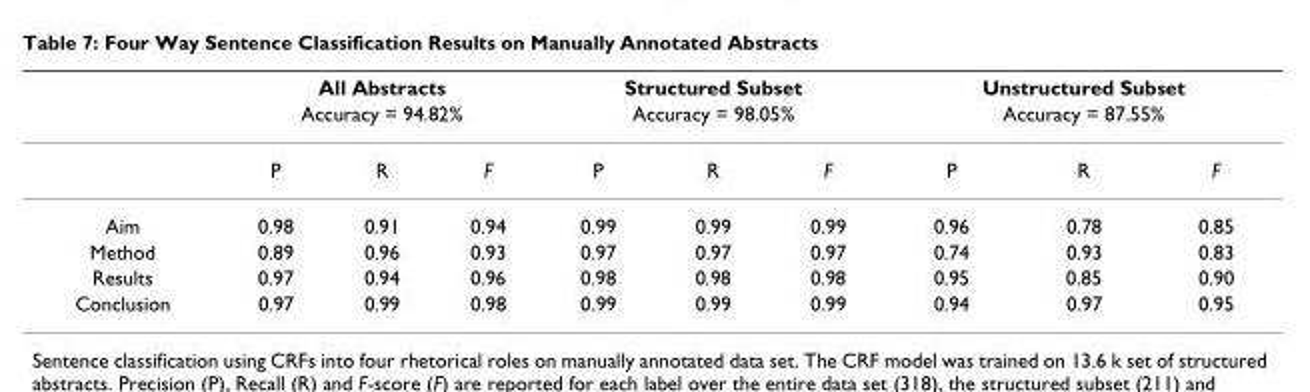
<table><thead><tr><td rowspan="3"></td><td rowspan="2" colspan="3">All Abstracts Accuracy = 94.82%</td><td rowspan="2" colspan="3">Structured Subset Accuracy = 98.05%</td><td rowspan="2" colspan="3">Unstructured Subset Accuracy = 87.55%</td></tr><tr></tr><tr><td>P</td><td>R</td><td>F</td><td>P</td><td>R</td><td>F</td><td>P</td><td>R</td><td>F</td></tr></thead><tbody><tr><td>Aim</td><td>0.98</td><td>0.91</td><td>0.94</td><td>0.99</td><td>0.99</td><td>0.99</td><td>0.96</td><td>0.78</td><td>0.85</td></tr><tr><td>Method</td><td>0.89</td><td>0.96</td><td>0.93</td><td>0.97</td><td>0.97</td><td>0.97</td><td>0.74</td><td>0.93</td><td>0.83</td></tr><tr><td>Results</td><td>0.97</td><td>0.94</td><td>0.96</td><td>0.98</td><td>0.98</td><td>0.98</td><td>0.95</td><td>0.85</td><td>0.90</td></tr><tr><td>Conclusion</td><td>0.97</td><td>0.99</td><td>0.98</td><td>0.99</td><td>0.99</td><td>0.99</td><td>0.94</td><td>0.97</td><td>0.95</td></tr></tbody></table>